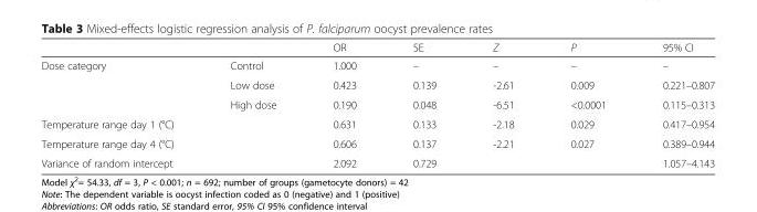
<table><thead><tr><td></td><td></td><td>OR</td><td>SE</td><td>Z</td><td>P</td><td>95% CI</td></tr></thead><tbody><tr><td rowspan="3">Dose category</td><td>Control</td><td>1.000</td><td>–</td><td>–</td><td>–</td><td>–</td></tr><tr><td>Low dose</td><td>0.423</td><td>0.139</td><td>-2.61</td><td>0.009</td><td>0.221–0.807</td></tr><tr><td>High dose</td><td>0.190</td><td>0.048</td><td>-6.51</td><td>&lt;0.0001</td><td>0.115–0.313</td></tr><tr><td>Temperature range day 1 (°C)</td><td></td><td>0.631</td><td>0.133</td><td>-2.18</td><td>0.029</td><td>0.417–0.954</td></tr><tr><td>Temperature range day 4 (°C)</td><td></td><td>0.606</td><td>0.137</td><td>-2.21</td><td>0.027</td><td>0.389–0.944</td></tr><tr><td>Variance of random intercept</td><td></td><td>2.092</td><td>0.729</td><td></td><td></td><td>1.057–4.143</td></tr></tbody></table>